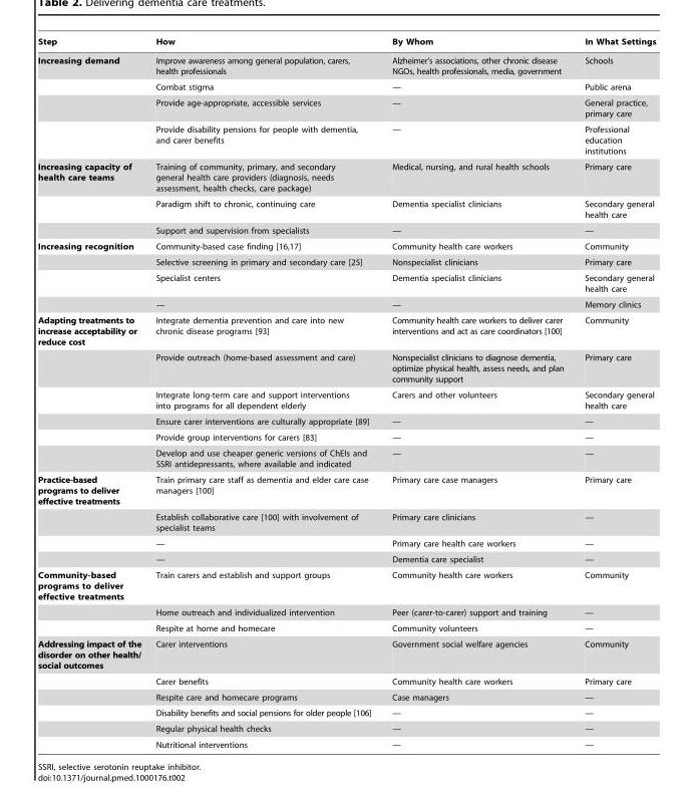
<table><thead><tr><td>Step</td><td>How</td><td>By Whom</td><td>In What Settings</td></tr></thead><tbody><tr><td rowspan="4">Increasing demand</td><td>Improve awareness among general population, carers, health professionals</td><td>Alzheimer’s associations, other chronic disease NGOs, health professionals, media, government</td><td>Schools</td></tr><tr><td>Combat stigma</td><td>—</td><td>Public arena</td></tr><tr><td>Provide age-appropriate, accessible services</td><td>—</td><td>General practice, primary care</td></tr><tr><td>Provide disability pensions for people with dementia, and carer benefits</td><td>—</td><td>Professional education institutions</td></tr><tr><td rowspan="3">Increasing capacity of health care teams</td><td>Training of community, primary, and secondary general health care providers (diagnosis, needs assessment, health checks, care package)</td><td>Medical, nursing, and rural health schools</td><td>Primary care</td></tr><tr><td>Paradigm shift to chronic, continuing care</td><td>Dementia specialist clinicians</td><td>Secondary general health care</td></tr><tr><td>Support and supervision from specialists</td><td>—</td><td>—</td></tr><tr><td rowspan="4">Increasing recognition</td><td>Community-based case finding [16,17]</td><td>Community health care workers</td><td>Community</td></tr><tr><td>Selective screening in primary and secondary care [25]</td><td>Nonspecialist clinicians</td><td>Primary care</td></tr><tr><td>Specialist centers</td><td>Dementia specialist clinicians</td><td>Secondary general health care</td></tr><tr><td>—</td><td>—</td><td>Memory clinics</td></tr><tr><td rowspan="6">Adapting treatments to increase acceptability or reduce cost</td><td>Integrate dementia prevention and care into new chronic disease programs [93]</td><td>Community health care workers to deliver carer interventions and act as care coordinators [100]</td><td>Community</td></tr><tr><td>Provide outreach (home-based assessment and care)</td><td>Nonspecialist clinicians to diagnose dementia, optimize physical health, assess needs, and plan community support</td><td>Primary care</td></tr><tr><td>Integrate long-term care and support interventions into programs for all dependent elderly</td><td>Carers and other volunteers</td><td>Secondary general health care</td></tr><tr><td>Ensure carer interventions are culturally appropriate [89]</td><td>—</td><td>—</td></tr><tr><td>Provide group interventions for carers [83]</td><td>—</td><td>—</td></tr><tr><td>Develop and use cheaper generic versions of ChEIs and SSRI antidepressants, where available and indicated</td><td>—</td><td>—</td></tr><tr><td rowspan="4">Practice-based programs to deliver effective treatments</td><td>Train primary care staff as dementia and elder care case managers [100]</td><td>Primary care case managers</td><td>Primary care</td></tr><tr><td>Establish collaborative care [100] with involvement of specialist teams</td><td>Primary care clinicians</td><td>—</td></tr><tr><td>—</td><td>Primary care health care workers</td><td>—</td></tr><tr><td>—</td><td>Dementia care specialist</td><td>—</td></tr><tr><td rowspan="3">Community-based programs to deliver effective treatments</td><td>Train carers and establish and support groups</td><td>Community health care workers</td><td>Community</td></tr><tr><td>Home outreach and individualized intervention</td><td>Peer (carer-to-carer) support and training</td><td>—</td></tr><tr><td>Respite at home and homecare</td><td>Community volunteers</td><td>—</td></tr><tr><td rowspan="6">Addressing impact of the disorder on other health/ social outcomes</td><td>Carer interventions</td><td>Government social welfare agencies</td><td>Community</td></tr><tr><td>Carer benefits</td><td>Community health care workers</td><td>Primary care</td></tr><tr><td>Respite care and homecare programs</td><td>Case managers</td><td>—</td></tr><tr><td>Disability benefits and social pensions for older people [106]</td><td>—</td><td>—</td></tr><tr><td>Regular physical health checks</td><td>—</td><td>—</td></tr><tr><td>Nutritional interventions</td><td>—</td><td>—</td></tr></tbody></table>